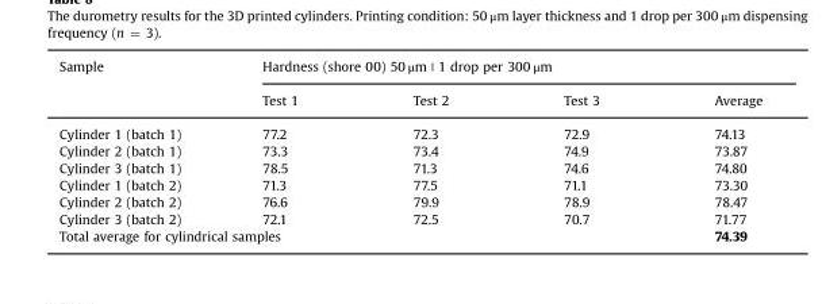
<table><thead><tr><td rowspan="2">Sample</td><td colspan="4">Hardness (shore 00) 50 μm | 1 drop per 300 μm</td></tr><tr><td>Test 1</td><td>Test 2</td><td>Test 3</td><td>Average</td></tr></thead><tbody><tr><td>Cylinder 1 (batch 1)</td><td>77.2</td><td>72.3</td><td>72.9</td><td>74.13</td></tr><tr><td>Cylinder 2 (batch 1)</td><td>73.3</td><td>73.4</td><td>74.9</td><td>73.87</td></tr><tr><td>Cylinder 3 (batch 1)</td><td>78.5</td><td>71.3</td><td>74.6</td><td>74.80</td></tr><tr><td>Cylinder 1 (batch 2)</td><td>71.3</td><td>77.5</td><td>71.1</td><td>73.30</td></tr><tr><td>Cylinder 2 (batch 2)</td><td>76.6</td><td>79.9</td><td>78.9</td><td>78.47</td></tr><tr><td>Cylinder 3 (batch 2)</td><td>72.1</td><td>72.5</td><td>70.7</td><td>71.77</td></tr><tr><td colspan="4">Total average for cylindrical samples</td><td>74.39</td></tr></tbody></table>